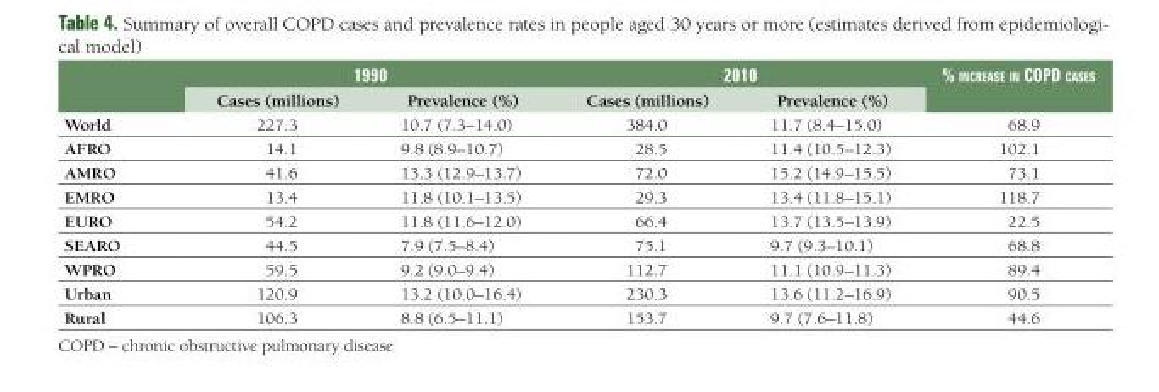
<table><thead><tr><td rowspan="2"></td><td colspan="2">1990</td><td colspan="2">2010</td><td rowspan="2">% inCrease in CoPd Cases</td></tr><tr><td>Cases (millions)</td><td>Prevalence (%)</td><td>Cases (millions)</td><td>Prevalence (%)</td></tr></thead><tbody><tr><td>World</td><td>227.3</td><td>10.7 (7.3–14.0)</td><td>384.0</td><td>11.7 (8.4–15.0)</td><td>68.9</td></tr><tr><td>AFRO</td><td>14.1</td><td>9.8 (8.9–10.7)</td><td>28.5</td><td>11.4 (10.5–12.3)</td><td>102.1</td></tr><tr><td>AMRO</td><td>41.6</td><td>13.3 (12.9–13.7)</td><td>72.0</td><td>15.2 (14.9–15.5)</td><td>73.1</td></tr><tr><td>EMRO</td><td>13.4</td><td>11.8 (10.1–13.5)</td><td>29.3</td><td>13.4 (11.8–15.1)</td><td>118.7</td></tr><tr><td>EURO</td><td>54.2</td><td>11.8 (11.6–12.0)</td><td>66.4</td><td>13.7 (13.5–13.9)</td><td>22.5</td></tr><tr><td>SEARO</td><td>44.5</td><td>7.9 (7.5–8.4)</td><td>75.1</td><td>9.7 (9.3–10.1)</td><td>68.8</td></tr><tr><td>WPRO</td><td>59.5</td><td>9.2 (9.0–9.4)</td><td>112.7</td><td>11.1 (10.9–11.3)</td><td>89.4</td></tr><tr><td>Urban</td><td>120.9</td><td>13.2 (10.0–16.4)</td><td>230.3</td><td>13.6 (11.2–16.9)</td><td>90.5</td></tr><tr><td>Rural</td><td>106.3</td><td>8.8 (6.5–11.1)</td><td>153.7</td><td>9.7 (7.6–11.8)</td><td>44.6</td></tr></tbody></table>